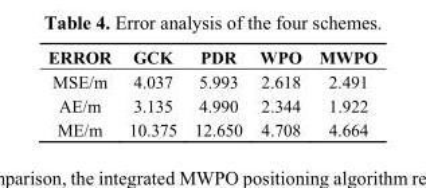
<table><thead><tr><td>ERROR</td><td>GCK</td><td>PDR</td><td>WPO</td><td>MWPO</td></tr></thead><tbody><tr><td>MSE/m</td><td>4.037</td><td>5.993</td><td>2.618</td><td>2.491</td></tr><tr><td>AE/m</td><td>3.135</td><td>4.990</td><td>2.344</td><td>1.922</td></tr><tr><td>ME/m</td><td>10.375</td><td>12.650</td><td>4.708</td><td>4.664</td></tr></tbody></table>